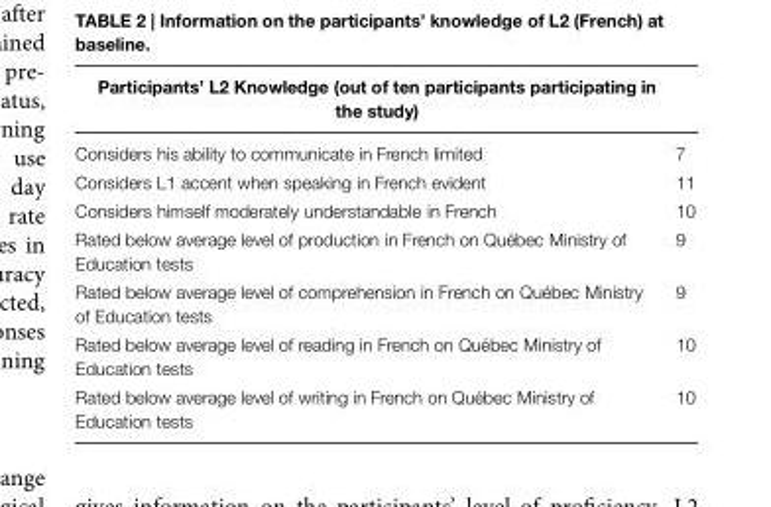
<table><thead><tr><td colspan="2">Participants’ L2 Knowledge (out of ten participants participating in the study)</td></tr><tr><td>Considers his ability to communicate in French limited</td><td>7</td></tr></thead><tbody><tr><td>Considers L1 accent when speaking in French evident</td><td>11</td></tr><tr><td>Considers himself moderately understandable in French</td><td>10</td></tr><tr><td>Rated below average level of production in French on Québec Ministry of Education tests</td><td>9</td></tr><tr><td>Rated below average level of comprehension in French on Québec Ministry of Education tests</td><td>9</td></tr><tr><td>Rated below average level of reading in French on Québec Ministry of Education tests</td><td>10</td></tr><tr><td>Rated below average level of writing in French on Québec Ministry of Education tests</td><td>10</td></tr></tbody></table>